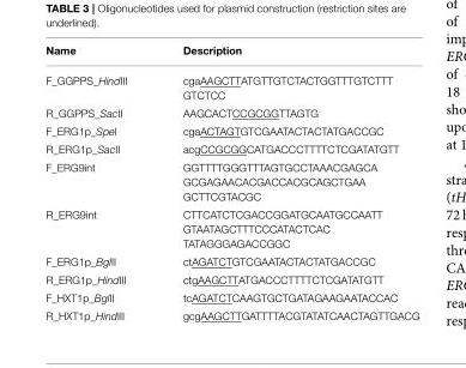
<table><thead><tr><td>Name</td><td>Description</td></tr></thead><tbody><tr><td>F_GGPPS_HindIII</td><td>cgaAAGCTTATGTTGTCTACTGGTTTGTCTTT GTCTCC</td></tr><tr><td>R_GGPPS_SacII</td><td>AAGCACTCCGCGGTTAGTG</td></tr><tr><td>F_ERG1p_SpeI</td><td>cgaACTAGTGTCGAATACTACTATGACCGC</td></tr><tr><td>R_ERG1p_SacII</td><td>acgCCGCGGCATGACCCTTTTCTCGATATGTT</td></tr><tr><td>F_ERG9int</td><td>GGTTTTGGGTTTAGTGCCTAAACGAGCA GCGAGAACACGACCACGCAGCTGAA GCTTCGTACGC</td></tr><tr><td>R_ERG9int</td><td>CTTCATCTCGACCGGATGCAATGCCAATT GTAATAGCTTTCCCATACTCAC TATAGGGAGACCGGC</td></tr><tr><td>F_ERG1p_BglII</td><td>ctAGATCTGTCGAATACTACTATGACCGC</td></tr><tr><td>R_ERG1p_HindIII</td><td>ctgAAGCTTATGACCCTTTTCTCGATATGTT</td></tr><tr><td>F_HXT1p_BglII</td><td>tcAGATCTCAAGTGCTGATAGAAGAATACCAC</td></tr><tr><td>R_HXT1p_HindIII</td><td>gcgAAGCTTGATTTTACGTATATCAACTAGTTGACG</td></tr></tbody></table>